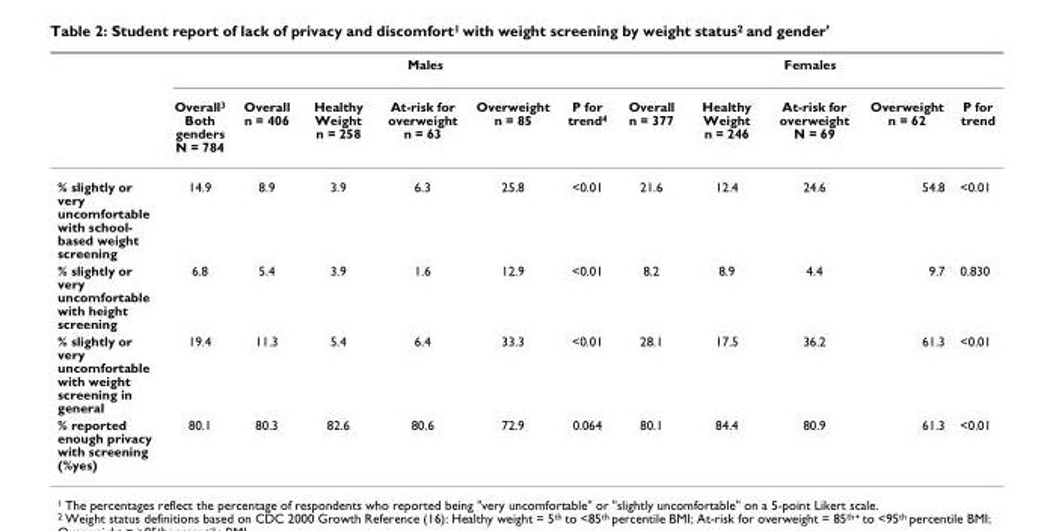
<table><thead><tr><td rowspan="2"></td><td rowspan="2">Overall<sup>3</sup> Both genders N = 784</td><td colspan="5">Males</td><td colspan="5">Females</td></tr><tr><td>Overall n = 406</td><td>Healthy Weight n = 258</td><td>At-risk for overweight n = 63</td><td>Overweight n = 85</td><td>P for trend<sup>4</sup></td><td>Overall n = 377</td><td>Healthy Weight n = 246</td><td>At-risk for overweight N = 69</td><td>Overweight n = 62</td><td>P for trend</td></tr></thead><tbody><tr><td>% slightly or very uncomfortable with school- based weight screening</td><td>14.9</td><td>8.9</td><td>3.9</td><td>6.3</td><td>25.8</td><td>&lt;0.01</td><td>21.6</td><td>12.4</td><td>24.6</td><td>54.8</td><td>&lt;0.01</td></tr><tr><td>% slightly or very uncomfortable with height screening</td><td>6.8</td><td>5.4</td><td>3.9</td><td>1.6</td><td>12.9</td><td>&lt;0.01</td><td>8.2</td><td>8.9</td><td>4.4</td><td>9.7</td><td>0.830</td></tr><tr><td>% slightly or very uncomfortable with weight screening in general</td><td>19.4</td><td>11.3</td><td>5.4</td><td>6.4</td><td>33.3</td><td>&lt;0.01</td><td>28.1</td><td>17.5</td><td>36.2</td><td>61.3</td><td>&lt;0.01</td></tr><tr><td>% reported enough privacy with screening (%yes)</td><td>80.1</td><td>80.3</td><td>82.6</td><td>80.6</td><td>72.9</td><td>0.064</td><td>80.1</td><td>84.4</td><td>80.9</td><td>61.3</td><td>&lt;0.01</td></tr></tbody></table>